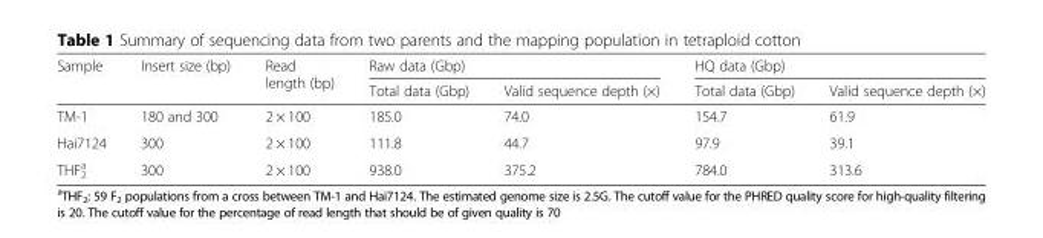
<table><thead><tr><td rowspan="2">Sample</td><td rowspan="2">Insert size (bp)</td><td rowspan="2">Read length (bp)</td><td colspan="2">Raw data (Gbp)</td><td colspan="2">HQ data (Gbp)</td></tr><tr><td>Total data (Gbp)</td><td>Valid sequence depth (×)</td><td>Total data (Gbp)</td><td>Valid sequence depth (×)</td></tr></thead><tbody><tr><td>TM-1</td><td>180 and 300</td><td>2 × 100</td><td>185.0</td><td>74.0</td><td>154.7</td><td>61.9</td></tr><tr><td>Hai7124</td><td>300</td><td>2 × 100</td><td>111.8</td><td>44.7</td><td>97.9</td><td>39.1</td></tr><tr><td>THF<sub>2</sub> <sup>a</sup></td><td>300</td><td>2 × 100</td><td>938.0</td><td>375.2</td><td>784.0</td><td>313.6</td></tr></tbody></table>